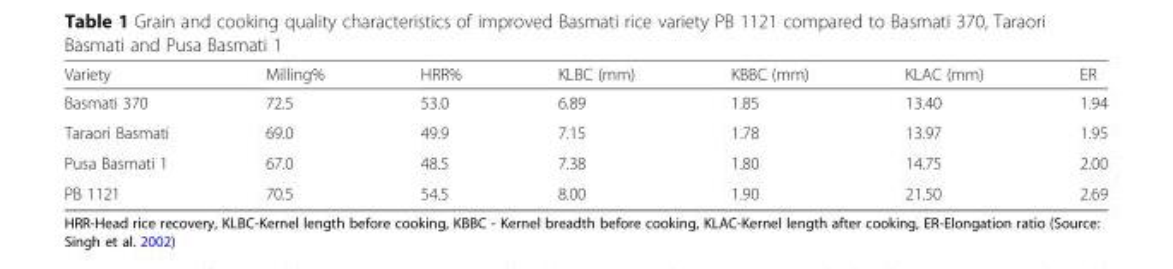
<table><thead><tr><td>Variety</td><td>Milling%</td><td>HRR%</td><td>KLBC (mm)</td><td>KBBC (mm)</td><td>KLAC (mm)</td><td>ER</td></tr></thead><tbody><tr><td>Basmati 370</td><td>72.5</td><td>53.0</td><td>6.89</td><td>1.85</td><td>13.40</td><td>1.94</td></tr><tr><td>Taraori Basmati</td><td>69.0</td><td>49.9</td><td>7.15</td><td>1.78</td><td>13.97</td><td>1.95</td></tr><tr><td>Pusa Basmati 1</td><td>67.0</td><td>48.5</td><td>7.38</td><td>1.80</td><td>14.75</td><td>2.00</td></tr><tr><td>PB 1121</td><td>70.5</td><td>54.5</td><td>8.00</td><td>1.90</td><td>21.50</td><td>2.69</td></tr></tbody></table>